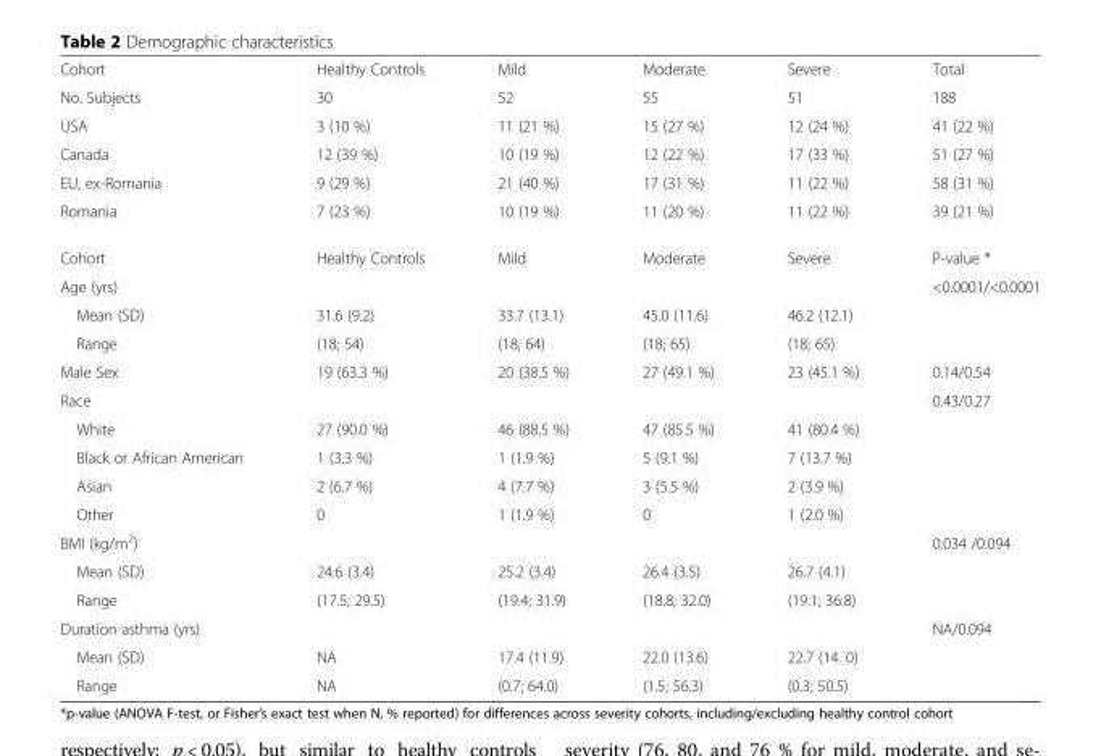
<table><tbody><tr><td>Cohort</td><td>Healthy Controls</td><td>Mild</td><td>Moderate</td><td>Severe</td><td>Total</td></tr><tr><td>No. Subjects</td><td>30</td><td>52</td><td>55</td><td>51</td><td>188</td></tr><tr><td>USA</td><td>3 (10 %)</td><td>11 (21 %)</td><td>15 (27 %)</td><td>12 (24 %)</td><td>41 (22 %)</td></tr><tr><td>Canada</td><td>12 (39 %)</td><td>10 (19 %)</td><td>12 (22 %)</td><td>17 (33 %)</td><td>51 (27 %)</td></tr><tr><td>EU, ex-Romania</td><td>9 (29 %)</td><td>21 (40 %)</td><td>17 (31 %)</td><td>11 (22 %)</td><td>58 (31 %)</td></tr><tr><td>Romania</td><td>7 (23 %)</td><td>10 (19 %)</td><td>11 (20 %)</td><td>11 (22 %)</td><td>39 (21 %)</td></tr><tr><td>Cohort</td><td>Healthy Controls</td><td>Mild</td><td>Moderate</td><td>Severe</td><td>P-value *</td></tr><tr><td>Age (yrs)</td><td></td><td></td><td></td><td></td><td>&lt;0.0001/&lt;0.0001</td></tr><tr><td>Mean (SD)</td><td>31.6 (9.2)</td><td>33.7 (13.1)</td><td>45.0 (11.6)</td><td>46.2 (12.1)</td><td></td></tr><tr><td>Range</td><td>(18; 54)</td><td>(18; 64)</td><td>(18; 65)</td><td>(18; 65)</td><td></td></tr><tr><td>Male Sex</td><td>19 (63.3 %)</td><td>20 (38.5 %)</td><td>27 (49.1 %)</td><td>23 (45.1 %)</td><td>0.14/0.54</td></tr><tr><td>Race</td><td></td><td></td><td></td><td></td><td>0.43/0.27</td></tr><tr><td>White</td><td>27 (90.0 %)</td><td>46 (88.5 %)</td><td>47 (85.5 %)</td><td>41 (80.4 %)</td><td></td></tr><tr><td>Black or African American</td><td>1 (3.3 %)</td><td>1 (1.9 %)</td><td>5 (9.1 %)</td><td>7 (13.7 %)</td><td></td></tr><tr><td>Asian</td><td>2 (6.7 %)</td><td>4 (7.7 %)</td><td>3 (5.5 %)</td><td>2 (3.9 %)</td><td></td></tr><tr><td>Other</td><td>0</td><td>1 (1.9 %)</td><td>0</td><td>1 (2.0 %)</td><td></td></tr><tr><td>BMI (kg/m<sup>2</sup>)</td><td></td><td></td><td></td><td></td><td>0.034 /0.094</td></tr><tr><td>Mean (SD)</td><td>24.6 (3.4)</td><td>25.2 (3.4)</td><td>26.4 (3.5)</td><td>26.7 (4.1)</td><td></td></tr><tr><td>Range</td><td>(17.5; 29.5)</td><td>(19.4; 31.9)</td><td>(18.8; 32.0)</td><td>(19.1; 36.8)</td><td></td></tr><tr><td>Duration asthma (yrs)</td><td></td><td></td><td></td><td></td><td>NA/0.094</td></tr><tr><td>Mean (SD)</td><td>NA</td><td>17.4 (11.9)</td><td>22.0 (13.6)</td><td>22.7 (14. 0)</td><td></td></tr><tr><td>Range</td><td>NA</td><td>(0.7; 64.0)</td><td>(1.5; 56.3)</td><td>(0.3; 50.5)</td><td></td></tr></tbody></table>